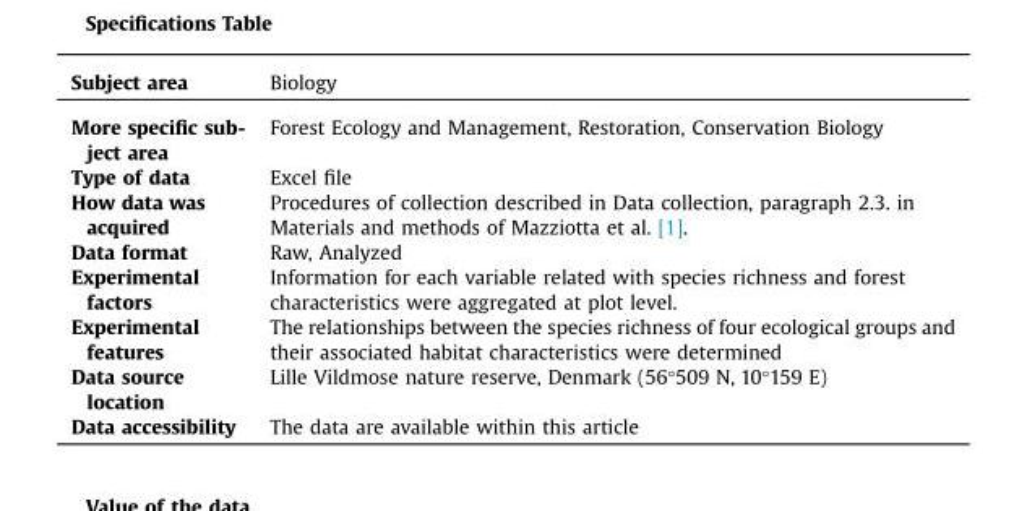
<table><thead><tr><td>Subject area</td><td>Biology</td></tr></thead><tbody><tr><td>More specific sub- ject area</td><td>Forest Ecology and Management, Restoration, Conservation Biology</td></tr><tr><td>Type of data</td><td>Excel file</td></tr><tr><td>How data was acquired</td><td>Procedures of collection described in Data collection, paragraph 2.3. in Materials and methods of Mazziotta et al. [1].</td></tr><tr><td>Data format</td><td>Raw, Analyzed</td></tr><tr><td>Experimental factors</td><td>Information for each variable related with species richness and forest characteristics were aggregated at plot level.</td></tr><tr><td>Experimental features</td><td>The relationships between the species richness of four ecological groups and their associated habitat characteristics were determined</td></tr><tr><td>Data source location</td><td>Lille Vildmose nature reserve, Denmark (56°509 N, 10°159 E)</td></tr><tr><td>Data accessibility</td><td>The data are available within this article</td></tr></tbody></table>